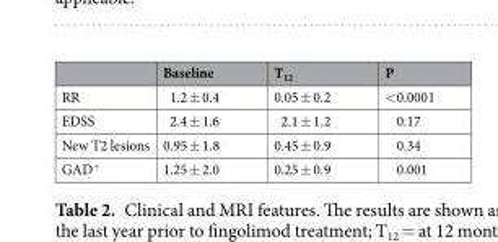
<table><thead><tr><td></td><td>Baseline</td><td>T<sub>12</sub></td><td>P</td></tr></thead><tbody><tr><td>RR</td><td>1.2 ± 0.4</td><td>0.05 ± 0.2</td><td>&lt;0.0001</td></tr><tr><td>EDSS</td><td>2.4 ± 1.6</td><td>2.1 ± 1.2</td><td>0.17</td></tr><tr><td>New T2 lesions</td><td>0.95 ± 1.8</td><td>0.45 ± 0.9</td><td>0.34</td></tr><tr><td>GAD<sup>+</sup></td><td>1.25 ± 2.0</td><td>0.25 ± 0.9</td><td>0.001</td></tr></tbody></table>